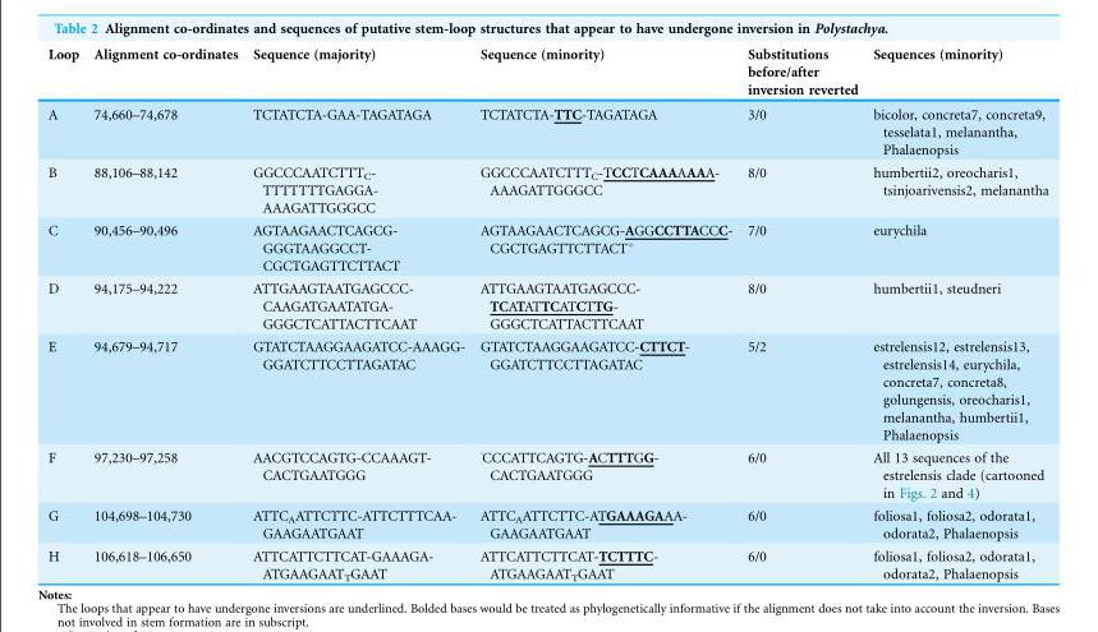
<table><thead><tr><td>Loop</td><td>Alignment co-ordinates</td><td>Sequence (majority)</td><td>Sequence (minority)</td><td>Substitutions before/after inversion reverted</td><td>Sequences (minority)</td></tr></thead><tbody><tr><td>A</td><td>74,660–74,678</td><td>TCTATCTA-GAA-TAGATAGA</td><td>TCTATCTA-TTC-TAGATAGA</td><td>3/0</td><td>bicolor, concreta7, concreta9, tesselata1, melanantha, Phalaenopsis</td></tr><tr><td>B</td><td>88,106–88,142</td><td>GGCCCAATCTTT<sub>C</sub>- TTTTTTTGAGGA- AAAGATTGGGCC</td><td>GGCCCAATCTTT<sub>C</sub>-TCCTCAAAAAAA- AAAGATTGGGCC</td><td>8/0</td><td>humbertii2, oreocharis1, tsinjoarivensis2, melanantha</td></tr><tr><td>C</td><td>90,456–90,496</td><td>AGTAAGAACTCAGCG- GGGTAAGGCCT- CGCTGAGTTCTTACT</td><td>AGTAAGAACTCAGCG-AGGCCTTACCC- CGCTGAGTTCTTACT*</td><td>7/0</td><td>eurychila</td></tr><tr><td>D</td><td>94,175–94,222</td><td>ATTGAAGTAATGAGCCC- CAAGATGAATATGA- GGGCTCATTACTTCAAT</td><td>ATTGAAGTAATGAGCCC- TCATATTCATCTTG- GGGCTCATTACTTCAAT</td><td>8/0</td><td>humbertii1, steudneri</td></tr><tr><td>E</td><td>94,679–94,717</td><td>GTATCTAAGGAAGATCC-AAAGG- GGATCTTCCTTAGATAC</td><td>GTATCTAAGGAAGATCC-CTTCT- GGATCTTCCTTAGATAC</td><td>5/2</td><td>estrelensis12, estrelensis13, estrelensis14, eurychila, concreta7, concreta8, golungensis, oreocharis1, melanantha, humbertii1, Phalaenopsis</td></tr><tr><td>F</td><td>97,230–97,258</td><td>AACGTCCAGTG-CCAAAGT- CACTGAATGGG</td><td><sup>^</sup>CCCATTCAGTG-ACTTTGG- CACTGAATGGG</td><td>6/0</td><td>All 13 sequences of the estrelensis clade (cartooned in Figs. 2 and 4)</td></tr><tr><td>G</td><td>104,698–104,730</td><td>ATTC<sub>A</sub>ATTCTTC-ATTCTTTCAA- GAAGAATGAAT</td><td>ATTC<sub>A</sub>ATTCTTC-ATGAAAGAAA- GAAGAATGAAT</td><td>6/0</td><td>foliosa1, foliosa2, odorata1, odorata2, Phalaenopsis</td></tr><tr><td>H</td><td>106,618–106,650</td><td>ATTCATTCTTCAT-GAAAGA- ATGAAGAAT<sub>T</sub>GAAT</td><td>ATTCATTCTTCAT-TCTTTC- ATGAAGAAT<sub>T</sub>GAAT</td><td>6/0</td><td>foliosa1, foliosa2, odorata1, odorata2, Phalaenopsis</td></tr></tbody></table>